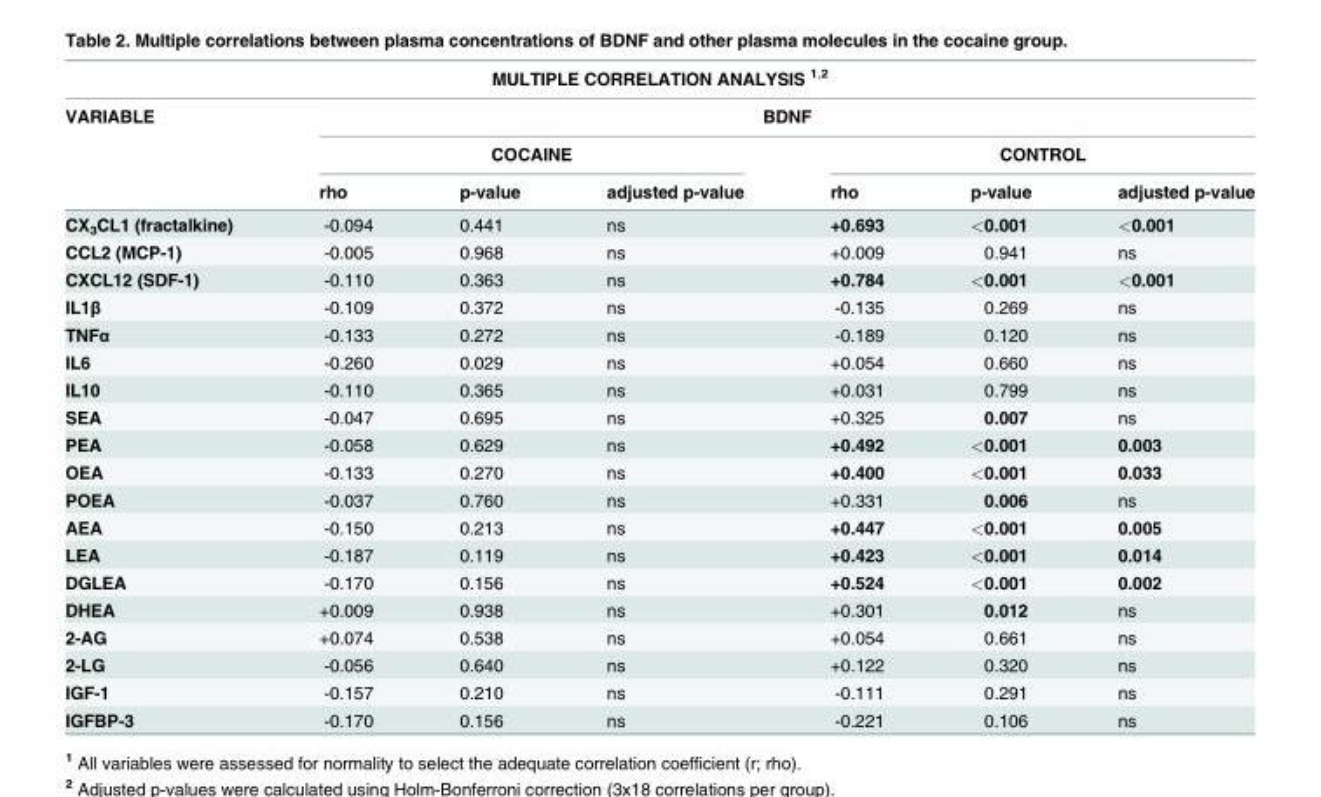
<table><thead><tr><td colspan="7">MULTIPLE CORRELATION ANALYSIS <sup>1,2</sup></td></tr><tr><td rowspan="3">VARIABLE</td><td colspan="6">BDNF</td></tr><tr><td colspan="3">COCAINE</td><td colspan="3">CONTROL</td></tr><tr><td>rho</td><td>p-value</td><td>adjusted p-value</td><td>rho</td><td>p-value</td><td>adjusted p-value</td></tr></thead><tbody><tr><td>CX<sub>3</sub>CL1 (fractalkine)</td><td>-0.094</td><td>0.441</td><td>ns</td><td>+0.693</td><td>&lt;0.001</td><td>&lt;0.001</td></tr><tr><td>CCL2 (MCP-1)</td><td>-0.005</td><td>0.968</td><td>ns</td><td>+0.009</td><td>0.941</td><td>ns</td></tr><tr><td>CXCL12 (SDF-1)</td><td>-0.110</td><td>0.363</td><td>ns</td><td>+0.784</td><td>&lt;0.001</td><td>&lt;0.001</td></tr><tr><td>IL1β</td><td>-0.109</td><td>0.372</td><td>ns</td><td>-0.135</td><td>0.269</td><td>ns</td></tr><tr><td>TNFα</td><td>-0.133</td><td>0.272</td><td>ns</td><td>-0.189</td><td>0.120</td><td>ns</td></tr><tr><td>IL6</td><td>-0.260</td><td>0.029</td><td>ns</td><td>+0.054</td><td>0.660</td><td>ns</td></tr><tr><td>IL10</td><td>-0.110</td><td>0.365</td><td>ns</td><td>+0.031</td><td>0.799</td><td>ns</td></tr><tr><td>SEA</td><td>-0.047</td><td>0.695</td><td>ns</td><td>+0.325</td><td>0.007</td><td>ns</td></tr><tr><td>PEA</td><td>-0.058</td><td>0.629</td><td>ns</td><td>+0.492</td><td>&lt;0.001</td><td>0.003</td></tr><tr><td>OEA</td><td>-0.133</td><td>0.270</td><td>ns</td><td>+0.400</td><td>&lt;0.001</td><td>0.033</td></tr><tr><td>POEA</td><td>-0.037</td><td>0.760</td><td>ns</td><td>+0.331</td><td>0.006</td><td>ns</td></tr><tr><td>AEA</td><td>-0.150</td><td>0.213</td><td>ns</td><td>+0.447</td><td>&lt;0.001</td><td>0.005</td></tr><tr><td>LEA</td><td>-0.187</td><td>0.119</td><td>ns</td><td>+0.423</td><td>&lt;0.001</td><td>0.014</td></tr><tr><td>DGLEA</td><td>-0.170</td><td>0.156</td><td>ns</td><td>+0.524</td><td>&lt;0.001</td><td>0.002</td></tr><tr><td>DHEA</td><td>+0.009</td><td>0.938</td><td>ns</td><td>+0.301</td><td>0.012</td><td>ns</td></tr><tr><td>2-AG</td><td>+0.074</td><td>0.538</td><td>ns</td><td>+0.054</td><td>0.661</td><td>ns</td></tr><tr><td>2-LG</td><td>-0.056</td><td>0.640</td><td>ns</td><td>+0.122</td><td>0.320</td><td>ns</td></tr><tr><td>IGF-1</td><td>-0.157</td><td>0.210</td><td>ns</td><td>-0.111</td><td>0.291</td><td>ns</td></tr><tr><td>IGFBP-3</td><td>-0.170</td><td>0.156</td><td>ns</td><td>-0.221</td><td>0.106</td><td>ns</td></tr></tbody></table>